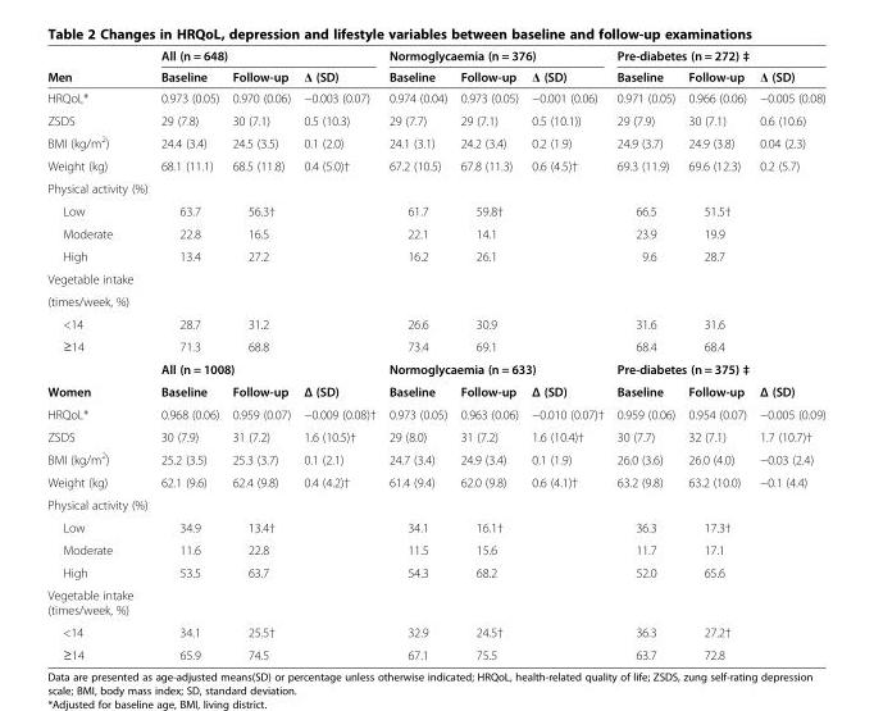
<table><thead><tr><td rowspan="2">Men</td><td colspan="3">All (n = 648)</td><td colspan="3">Normoglycaemia (n = 376)</td><td colspan="3">Pre-diabetes (n = 272) ‡</td></tr><tr><td>Baseline</td><td>Follow-up</td><td>Δ (SD)</td><td>Baseline</td><td>Follow-up</td><td>Δ (SD)</td><td>Baseline</td><td>Follow-up</td><td>Δ (SD)</td></tr></thead><tbody><tr><td>HRQoL*</td><td>0.973 (0.05)</td><td>0.970 (0.06)</td><td>−0.003 (0.07)</td><td>0.974 (0.04)</td><td>0.973 (0.05)</td><td>−0.001 (0.06)</td><td>0.971 (0.05)</td><td>0.966 (0.06)</td><td>−0.005 (0.08)</td></tr><tr><td>ZSDS</td><td>29 (7.8)</td><td>30 (7.1)</td><td>0.5 (10.3)</td><td>29 (7.7)</td><td>29 (7.1)</td><td>0.5 (10.1))</td><td>29 (7.9)</td><td>30 (7.1)</td><td>0.6 (10.6)</td></tr><tr><td>BMI (kg/m<sup>2</sup>)</td><td>24.4 (3.4)</td><td>24.5 (3.5)</td><td>0.1 (2.0)</td><td>24.1 (3.1)</td><td>24.2 (3.4)</td><td>0.2 (1.9)</td><td>24.9 (3.7)</td><td>24.9 (3.8)</td><td>0.04 (2.3)</td></tr><tr><td>Weight (kg)</td><td>68.1 (11.1)</td><td>68.5 (11.8)</td><td>0.4 (5.0)†</td><td>67.2 (10.5)</td><td>67.8 (11.3)</td><td>0.6 (4.5)†</td><td>69.3 (11.9)</td><td>69.6 (12.3)</td><td>0.2 (5.7)</td></tr><tr><td colspan="10">Physical activity (%)</td></tr><tr><td>Low</td><td>63.7</td><td>56.3†</td><td></td><td>61.7</td><td>59.8†</td><td></td><td>66.5</td><td>51.5†</td><td></td></tr><tr><td>Moderate</td><td>22.8</td><td>16.5</td><td></td><td>22.1</td><td>14.1</td><td></td><td>23.9</td><td>19.9</td><td></td></tr><tr><td>High</td><td>13.4</td><td>27.2</td><td></td><td>16.2</td><td>26.1</td><td></td><td>9.6</td><td>28.7</td><td></td></tr><tr><td colspan="10">Vegetable intake</td></tr><tr><td colspan="10">(times/week, %)</td></tr><tr><td>&lt;14</td><td>28.7</td><td>31.2</td><td></td><td>26.6</td><td>30.9</td><td></td><td>31.6</td><td>31.6</td><td></td></tr><tr><td rowspan="2">≥14</td><td>71.3</td><td>68.8</td><td></td><td>73.4</td><td>69.1</td><td></td><td>68.4</td><td>68.4</td><td></td></tr><tr><td colspan="3">All (n = 1008)</td><td colspan="3">Normoglycaemia (n = 633)</td><td colspan="3">Pre-diabetes (n = 375) ‡</td></tr><tr><td>Women</td><td>Baseline</td><td>Follow-up</td><td>Δ (SD)</td><td>Baseline</td><td>Follow-up</td><td>Δ (SD)</td><td>Baseline</td><td>Follow-up</td><td>Δ (SD)</td></tr><tr><td>HRQoL*</td><td>0.968 (0.06)</td><td>0.959 (0.07)</td><td>−0.009 (0.08)†</td><td>0.973 (0.05)</td><td>0.963 (0.06)</td><td>−0.010 (0.07)†</td><td>0.959 (0.06)</td><td>0.954 (0.07)</td><td>−0.005 (0.09)</td></tr><tr><td>ZSDS</td><td>30 (7.9)</td><td>31 (7.2)</td><td>1.6 (10.5)†</td><td>29 (8.0)</td><td>31 (7.2)</td><td>1.6 (10.4)†</td><td>30 (7.7)</td><td>32 (7.1)</td><td>1.7 (10.7)†</td></tr><tr><td>BMI (kg/m<sup>2</sup>)</td><td>25.2 (3.5)</td><td>25.3 (3.7)</td><td>0.1 (2.1)</td><td>24.7 (3.4)</td><td>24.9 (3.4)</td><td>0.1 (1.9)</td><td>26.0 (3.6)</td><td>26.0 (4.0)</td><td>−0.03 (2.4)</td></tr><tr><td>Weight (kg)</td><td>62.1 (9.6)</td><td>62.4 (9.8)</td><td>0.4 (4.2)†</td><td>61.4 (9.4)</td><td>62.0 (9.8)</td><td>0.6 (4.1)†</td><td>63.2 (9.8)</td><td>63.2 (10.0)</td><td>−0.1 (4.4)</td></tr><tr><td colspan="10">Physical activity (%)</td></tr><tr><td>Low</td><td>34.9</td><td>13.4†</td><td></td><td>34.1</td><td>16.1†</td><td></td><td>36.3</td><td>17.3†</td><td></td></tr><tr><td>Moderate</td><td>11.6</td><td>22.8</td><td></td><td>11.5</td><td>15.6</td><td></td><td>11.7</td><td>17.1</td><td></td></tr><tr><td>High</td><td>53.5</td><td>63.7</td><td></td><td>54.3</td><td>68.2</td><td></td><td>52.0</td><td>65.6</td><td></td></tr><tr><td colspan="10">Vegetable intake (times/week, %)</td></tr><tr><td>&lt;14</td><td>34.1</td><td>25.5†</td><td></td><td>32.9</td><td>24.5†</td><td></td><td>36.3</td><td>27.2†</td><td></td></tr><tr><td>≥14</td><td>65.9</td><td>74.5</td><td></td><td>67.1</td><td>75.5</td><td></td><td>63.7</td><td>72.8</td><td></td></tr></tbody></table>